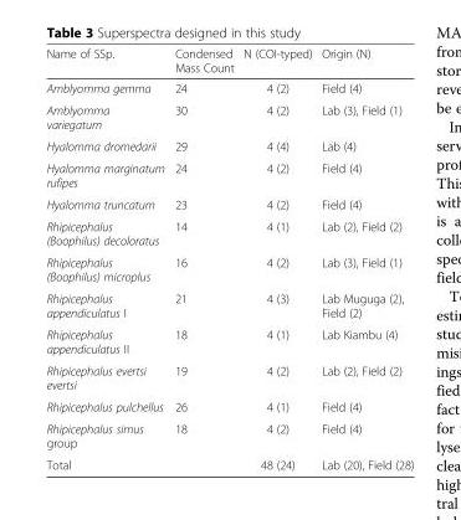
<table><thead><tr><td>Name of SSp.</td><td>Condensed Mass Count</td><td>N (COI-typed)</td><td>Origin (N)</td></tr></thead><tbody><tr><td>Amblyomma gemma</td><td>24</td><td>4 (2)</td><td>Field (4)</td></tr><tr><td>Amblyomma variegatum</td><td>30</td><td>4 (2)</td><td>Lab (3), Field (1)</td></tr><tr><td>Hyalomma dromedarii</td><td>29</td><td>4 (4)</td><td>Lab (4)</td></tr><tr><td>Hyalomma marginatum rufipes</td><td>24</td><td>4 (2)</td><td>Field (4)</td></tr><tr><td>Hyalomma truncatum</td><td>23</td><td>4 (2)</td><td>Field (4)</td></tr><tr><td>Rhipicephalus (Boophilus) decoloratus</td><td>14</td><td>4 (1)</td><td>Lab (2), Field (2)</td></tr><tr><td>Rhipicephalus (Boophilus) microplus</td><td>16</td><td>4 (2)</td><td>Lab (3), Field (1)</td></tr><tr><td>Rhipicephalus appendiculatus I</td><td>21</td><td>4 (3)</td><td>Lab Muguga (2), Field (2)</td></tr><tr><td>Rhipicephalus appendiculatus II</td><td>18</td><td>4 (1)</td><td>Lab Kiambu (4)</td></tr><tr><td>Rhipicephalus evertsi evertsi</td><td>19</td><td>4 (2)</td><td>Lab (2), Field (2)</td></tr><tr><td>Rhipicephalus pulchellus</td><td>26</td><td>4 (1)</td><td>Field (4)</td></tr><tr><td>Rhipicephalus simus group</td><td>18</td><td>4 (2)</td><td>Field (4)</td></tr><tr><td>Total</td><td></td><td>48 (24)</td><td>Lab (20), Field (28)</td></tr></tbody></table>